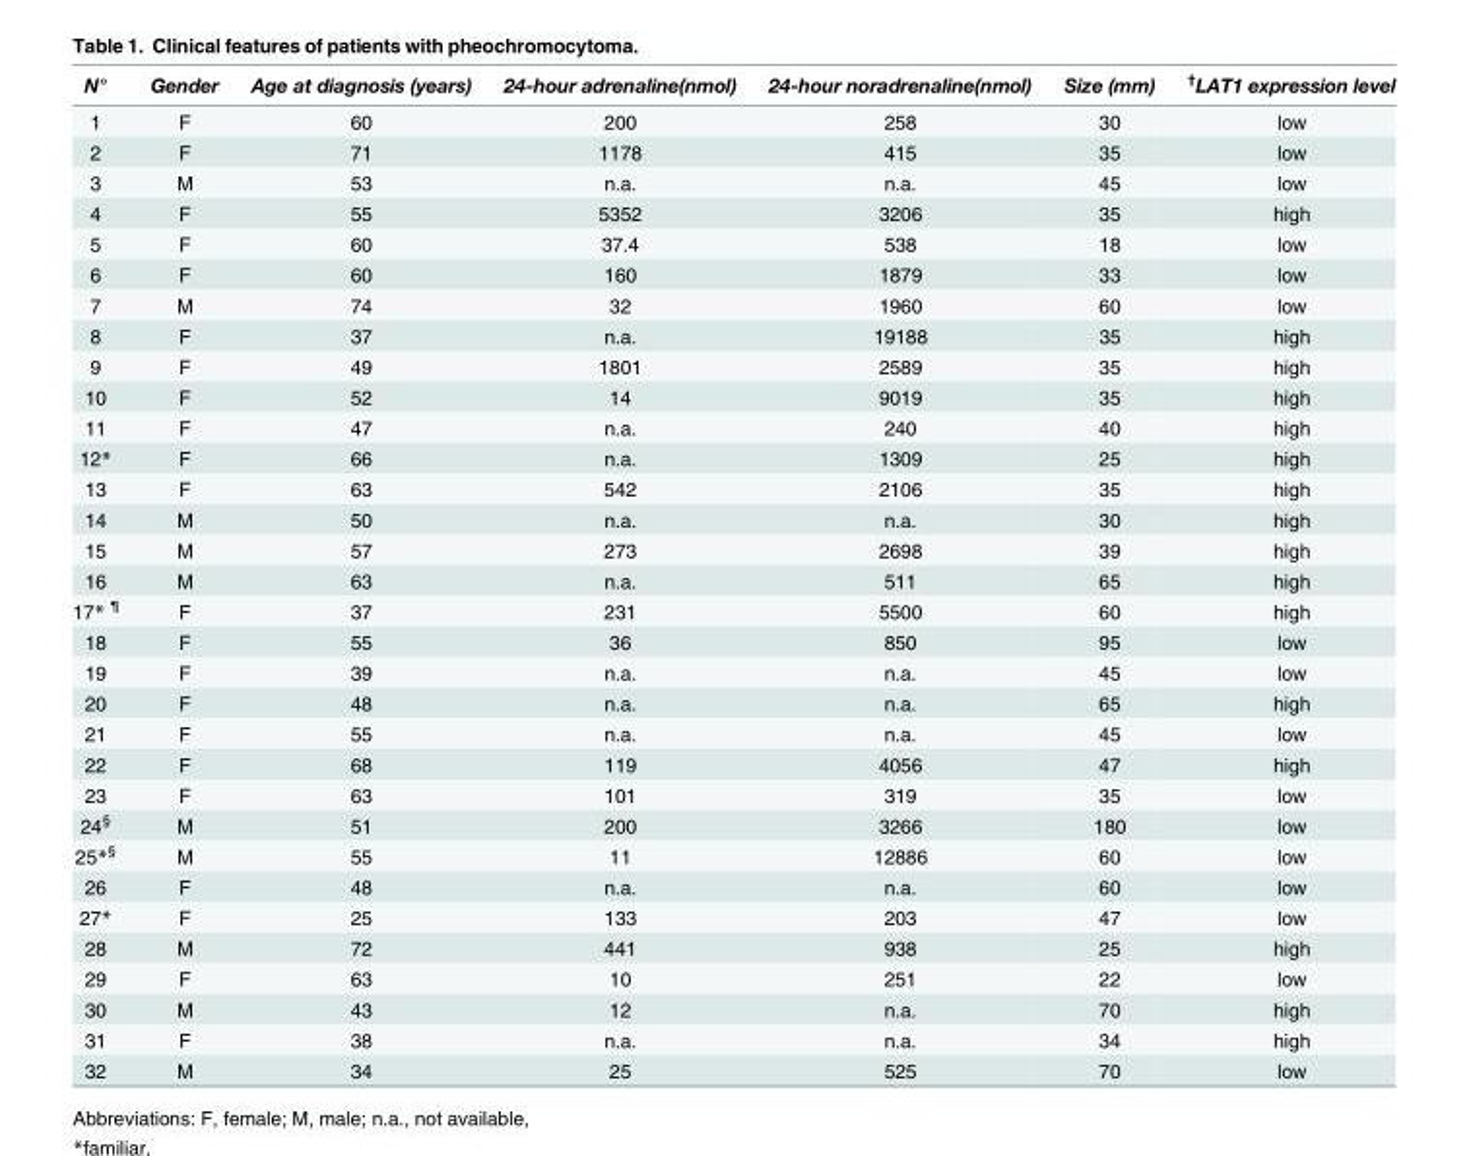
<table><thead><tr><td>N°</td><td>Gender</td><td>Age at diagnosis (years)</td><td>24-hour adrenaline(nmol)</td><td>24-hour noradrenaline(nmol)</td><td>Size (mm)</td><td><sup>†</sup>LAT1 expression level</td></tr></thead><tbody><tr><td>1</td><td>F</td><td>60</td><td>200</td><td>258</td><td>30</td><td>low</td></tr><tr><td>2</td><td>F</td><td>71</td><td>1178</td><td>415</td><td>35</td><td>low</td></tr><tr><td>3</td><td>M</td><td>53</td><td>n.a.</td><td>n.a.</td><td>45</td><td>low</td></tr><tr><td>4</td><td>F</td><td>55</td><td>5352</td><td>3206</td><td>35</td><td>high</td></tr><tr><td>5</td><td>F</td><td>60</td><td>37.4</td><td>538</td><td>18</td><td>low</td></tr><tr><td>6</td><td>F</td><td>60</td><td>160</td><td>1879</td><td>33</td><td>low</td></tr><tr><td>7</td><td>M</td><td>74</td><td>32</td><td>1960</td><td>60</td><td>low</td></tr><tr><td>8</td><td>F</td><td>37</td><td>n.a.</td><td>19188</td><td>35</td><td>high</td></tr><tr><td>9</td><td>F</td><td>49</td><td>1801</td><td>2589</td><td>35</td><td>high</td></tr><tr><td>10</td><td>F</td><td>52</td><td>14</td><td>9019</td><td>35</td><td>high</td></tr><tr><td>11</td><td>F</td><td>47</td><td>n.a.</td><td>240</td><td>40</td><td>high</td></tr><tr><td>12*</td><td>F</td><td>66</td><td>n.a.</td><td>1309</td><td>25</td><td>high</td></tr><tr><td>13</td><td>F</td><td>63</td><td>542</td><td>2106</td><td>35</td><td>high</td></tr><tr><td>14</td><td>M</td><td>50</td><td>n.a.</td><td>n.a.</td><td>30</td><td>high</td></tr><tr><td>15</td><td>M</td><td>57</td><td>273</td><td>2698</td><td>39</td><td>high</td></tr><tr><td>16</td><td>M</td><td>63</td><td>n.a.</td><td>511</td><td>65</td><td>high</td></tr><tr><td>17* <sup>¶</sup></td><td>F</td><td>37</td><td>231</td><td>5500</td><td>60</td><td>high</td></tr><tr><td>18</td><td>F</td><td>55</td><td>36</td><td>850</td><td>95</td><td>low</td></tr><tr><td>19</td><td>F</td><td>39</td><td>n.a.</td><td>n.a.</td><td>45</td><td>low</td></tr><tr><td>20</td><td>F</td><td>48</td><td>n.a.</td><td>n.a.</td><td>65</td><td>high</td></tr><tr><td>21</td><td>F</td><td>55</td><td>n.a.</td><td>n.a.</td><td>45</td><td>low</td></tr><tr><td>22</td><td>F</td><td>68</td><td>119</td><td>4056</td><td>47</td><td>high</td></tr><tr><td>23</td><td>F</td><td>63</td><td>101</td><td>319</td><td>35</td><td>low</td></tr><tr><td>24<sup>§</sup></td><td>M</td><td>51</td><td>200</td><td>3266</td><td>180</td><td>low</td></tr><tr><td>25*<sup>§</sup></td><td>M</td><td>55</td><td>11</td><td>12886</td><td>60</td><td>low</td></tr><tr><td>26</td><td>F</td><td>48</td><td>n.a.</td><td>n.a.</td><td>60</td><td>low</td></tr><tr><td>27*</td><td>F</td><td>25</td><td>133</td><td>203</td><td>47</td><td>low</td></tr><tr><td>28</td><td>M</td><td>72</td><td>441</td><td>938</td><td>25</td><td>high</td></tr><tr><td>29</td><td>F</td><td>63</td><td>10</td><td>251</td><td>22</td><td>low</td></tr><tr><td>30</td><td>M</td><td>43</td><td>12</td><td>n.a.</td><td>70</td><td>high</td></tr><tr><td>31</td><td>F</td><td>38</td><td>n.a.</td><td>n.a.</td><td>34</td><td>high</td></tr><tr><td>32</td><td>M</td><td>34</td><td>25</td><td>525</td><td>70</td><td>low</td></tr></tbody></table>